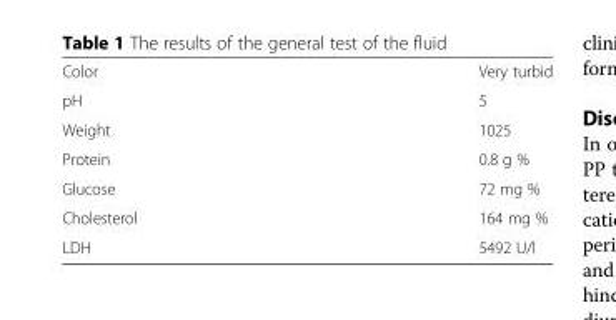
<table><tbody><tr><td>Color</td><td>Very turbid</td></tr><tr><td>pH</td><td>5</td></tr><tr><td>Weight</td><td>1025</td></tr><tr><td>Protein</td><td>0.8 g %</td></tr><tr><td>Glucose</td><td>72 mg %</td></tr><tr><td>Cholesterol</td><td>164 mg %</td></tr><tr><td>LDH</td><td>5492 U/l</td></tr></tbody></table>